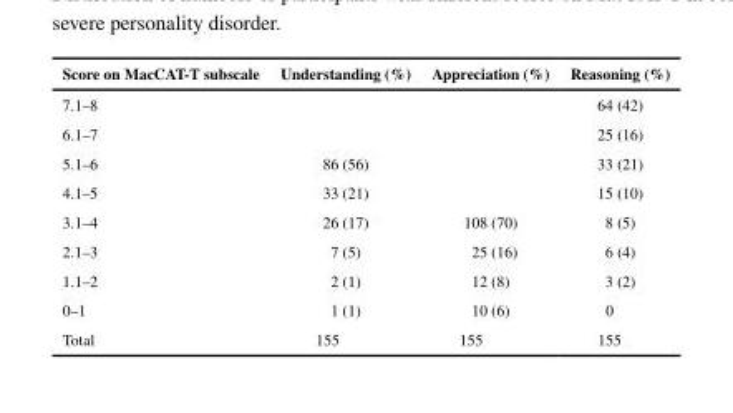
<table><thead><tr><td>Score on MacCAT-T subscale</td><td>Understanding (%)</td><td>Appreciation (%)</td><td>Reasoning (%)</td></tr></thead><tbody><tr><td>7.1–8</td><td></td><td></td><td>64 (42)</td></tr><tr><td>6.1–7</td><td></td><td></td><td>25 (16)</td></tr><tr><td>5.1–6</td><td>86 (56)</td><td></td><td>33 (21)</td></tr><tr><td>4.1–5</td><td>33 (21)</td><td></td><td>15 (10)</td></tr><tr><td>3.1–4</td><td>26 (17)</td><td>108 (70)</td><td>8 (5)</td></tr><tr><td>2.1–3</td><td>7 (5)</td><td>25 (16)</td><td>6 (4)</td></tr><tr><td>1.1–2</td><td>2 (1)</td><td>12 (8)</td><td>3 (2)</td></tr><tr><td>0–1</td><td>1 (1)</td><td>10 (6)</td><td>0</td></tr><tr><td>Total</td><td>155</td><td>155</td><td>155</td></tr></tbody></table>